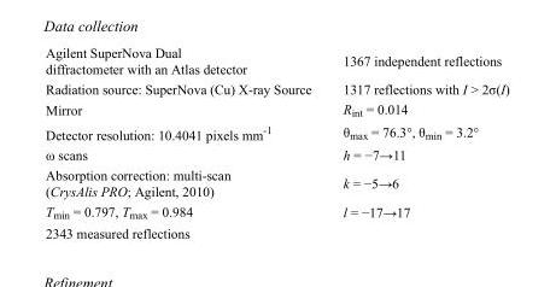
<table><tbody><tr><td>Agilent SuperNova Dual diffractometer with an Atlas detector</td><td>1367 independent reflections</td></tr><tr><td>Radiation source: SuperNova (Cu) X-ray Source</td><td>1317 reflections with I &gt; 2σ(I)</td></tr><tr><td>Mirror</td><td>R<sub>int</sub> = 0.014</td></tr><tr><td>Detector resolution: 10.4041 pixels mm<sup>-1</sup></td><td>θ<sub>max</sub> = 76.3°, θ<sub>min</sub> = 3.2°</td></tr><tr><td>ω scans</td><td>h = −7→11</td></tr><tr><td>Absorption correction: multi-scan (CrysAlis PRO; Agilent, 2010)</td><td>k = −5→6</td></tr><tr><td>T<sub>min</sub> = 0.797, T<sub>max</sub> = 0.984</td><td>l = −17→17</td></tr><tr><td>2343 measured reflections</td><td></td></tr></tbody></table>